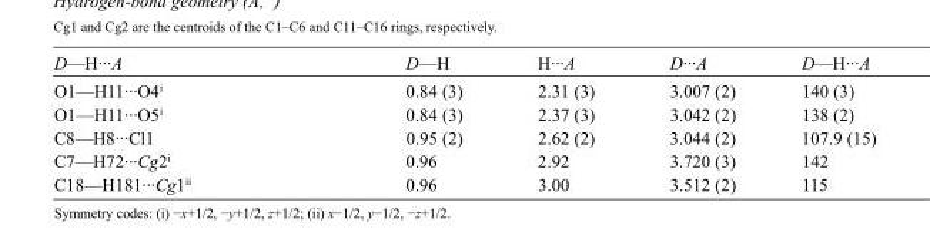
<table><tbody><tr><td>D—H···A</td><td>D—H</td><td>H···A</td><td>D···A</td><td>D—H···A</td></tr><tr><td>O1—H11···O4<sup>i</sup></td><td>0.84 (3)</td><td>2.31 (3)</td><td>3.007 (2)</td><td>140 (3)</td></tr><tr><td>O1—H11···O5<sup>i</sup></td><td>0.84 (3)</td><td>2.37 (3)</td><td>3.042 (2)</td><td>138 (2)</td></tr><tr><td>C8—H8···Cl1</td><td>0.95 (2)</td><td>2.62 (2)</td><td>3.044 (2)</td><td>107.9 (15)</td></tr><tr><td>C7—H72···Cg2<sup>i</sup></td><td>0.96</td><td>2.92</td><td>3.720 (3)</td><td>142</td></tr><tr><td>C18—H181···Cg1<sup>ii</sup></td><td>0.96</td><td>3.00</td><td>3.512 (2)</td><td>115</td></tr></tbody></table>